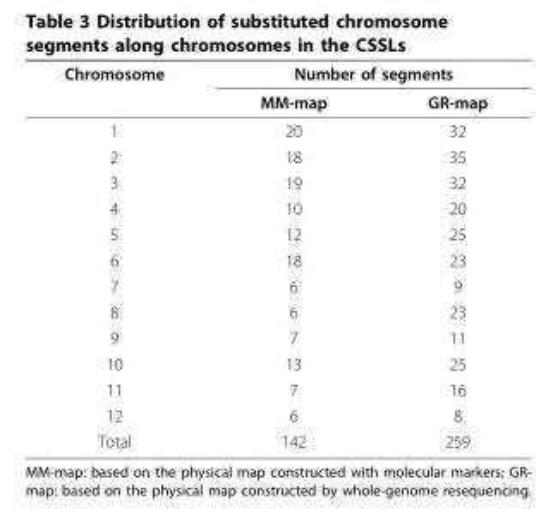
<table><thead><tr><td rowspan="2">Chromosome</td><td colspan="2">Number of segments</td></tr><tr><td>MM-map</td><td>GR-map</td></tr></thead><tbody><tr><td>1</td><td>20</td><td>32</td></tr><tr><td>2</td><td>18</td><td>35</td></tr><tr><td>3</td><td>19</td><td>32</td></tr><tr><td>4</td><td>10</td><td>20</td></tr><tr><td>5</td><td>12</td><td>25</td></tr><tr><td>6</td><td>18</td><td>23</td></tr><tr><td>7</td><td>6</td><td>9</td></tr><tr><td>8</td><td>6</td><td>23</td></tr><tr><td>9</td><td>7</td><td>11</td></tr><tr><td>10</td><td>13</td><td>25</td></tr><tr><td>11</td><td>7</td><td>16</td></tr><tr><td>12</td><td>6</td><td>8</td></tr><tr><td>Total</td><td>142</td><td>259</td></tr></tbody></table>